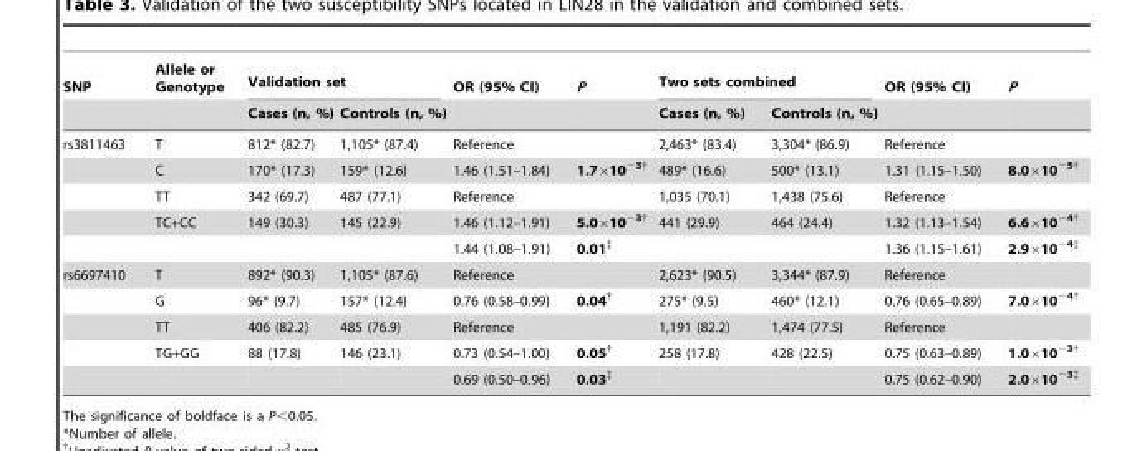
<table><thead><tr><td rowspan="2">SNP</td><td rowspan="2">Allele or Genotype</td><td colspan="2">Validation set</td><td rowspan="2">OR (95% CI)</td><td rowspan="2">P</td><td colspan="2">Two sets combined</td><td rowspan="2">OR (95% CI)</td><td rowspan="2">P</td></tr><tr><td>Cases (n, %)</td><td>Controls (n, %)</td><td>Cases (n, %)</td><td>Controls (n, %)</td></tr></thead><tbody><tr><td rowspan="5">rs3811463</td><td>T</td><td>812* (82.7)</td><td>1,105* (87.4)</td><td>Reference</td><td></td><td>2,463* (83.4)</td><td>3,304* (86.9)</td><td>Reference</td><td></td></tr><tr><td>C</td><td>170* (17.3)</td><td>159* (12.6)</td><td>1.46 (1.51–1.84)</td><td>1.7×10<sup>−3</sup>†</td><td>489* (16.6)</td><td>500* (13.1)</td><td>1.31 (1.15–1.50)</td><td>8.0×10<sup>−5</sup>†</td></tr><tr><td>TT</td><td>342 (69.7)</td><td>487 (77.1)</td><td>Reference</td><td></td><td>1,035 (70.1)</td><td>1,438 (75.6)</td><td>Reference</td><td></td></tr><tr><td>TC+CC</td><td>149 (30.3)</td><td>145 (22.9)</td><td>1.46 (1.12–1.91)</td><td>5.0×10<sup>−3</sup>†</td><td>441 (29.9)</td><td>464 (24.4)</td><td>1.32 (1.13–1.54)</td><td>6.6×10<sup>−4</sup>†</td></tr><tr><td></td><td></td><td></td><td>1.44 (1.08–1.91)</td><td>0.01‡</td><td></td><td></td><td>1.36 (1.15–1.61)</td><td>2.9×10<sup>−4</sup>‡</td></tr><tr><td rowspan="5">rs6697410</td><td>T</td><td>892* (90.3)</td><td>1,105* (87.6)</td><td>Reference</td><td></td><td>2,623* (90.5)</td><td>3,344* (87.9)</td><td>Reference</td><td></td></tr><tr><td>G</td><td>96* (9.7)</td><td>157* (12.4)</td><td>0.76 (0.58–0.99)</td><td>0.04†</td><td>275* (9.5)</td><td>460* (12.1)</td><td>0.76 (0.65–0.89)</td><td>7.0×10<sup>−4</sup>†</td></tr><tr><td>TT</td><td>406 (82.2)</td><td>485 (76.9)</td><td>Reference</td><td></td><td>1,191 (82.2)</td><td>1,474 (77.5)</td><td>Reference</td><td></td></tr><tr><td>TG+GG</td><td>88 (17.8)</td><td>146 (23.1)</td><td>0.73 (0.54–1.00)</td><td>0.05†</td><td>258 (17.8)</td><td>428 (22.5)</td><td>0.75 (0.63–0.89)</td><td>1.0×10<sup>−3</sup>†</td></tr><tr><td></td><td></td><td></td><td>0.69 (0.50–0.96)</td><td>0.03‡</td><td></td><td></td><td>0.75 (0.62–0.90)</td><td>2.0×10<sup>−3</sup>‡</td></tr></tbody></table>